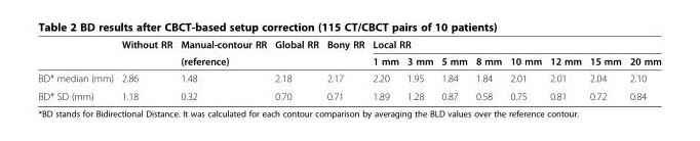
<table><thead><tr><td rowspan="2"></td><td rowspan="2">Without RR</td><td rowspan="2">Manual-contour RR (reference)</td><td rowspan="2">Global RR</td><td rowspan="2">Bony RR</td><td colspan="8">Local RR</td></tr><tr><td>1 mm</td><td>3 mm</td><td>5 mm</td><td>8 mm</td><td>10 mm</td><td>12 mm</td><td>15 mm</td><td>20 mm</td></tr></thead><tbody><tr><td>BD* median (mm)</td><td>2.86</td><td>1.48</td><td>2.18</td><td>2.17</td><td>2.20</td><td>1.95</td><td>1.84</td><td>1.84</td><td>2.01</td><td>2.01</td><td>2.04</td><td>2.10</td></tr><tr><td>BD* SD (mm)</td><td>1.18</td><td>0.32</td><td>0.70</td><td>0.71</td><td>1.89</td><td>1.28</td><td>0.87</td><td>0.58</td><td>0.75</td><td>0.81</td><td>0.72</td><td>0.84</td></tr></tbody></table>